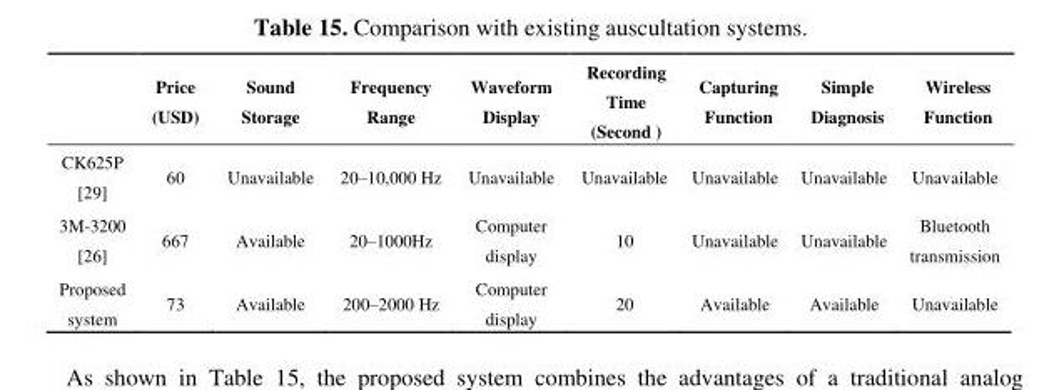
<table><thead><tr><td></td><td>Price (USD)</td><td>Sound Storage</td><td>Frequency Range</td><td>Waveform Display</td><td>Recording Time (Second )</td><td>Capturing Function</td><td>Simple Diagnosis</td><td>Wireless Function</td></tr></thead><tbody><tr><td>CK625P [29]</td><td>60</td><td>Unavailable</td><td>20–10,000 Hz</td><td>Unavailable</td><td>Unavailable</td><td>Unavailable</td><td>Unavailable</td><td>Unavailable</td></tr><tr><td>3M-3200 [26]</td><td>667</td><td>Available</td><td>20–1000Hz</td><td>Computer display</td><td>10</td><td>Unavailable</td><td>Unavailable</td><td>Bluetooth transmission</td></tr><tr><td>Proposed system</td><td>73</td><td>Available</td><td>200–2000 Hz</td><td>Computer display</td><td>20</td><td>Available</td><td>Available</td><td>Unavailable</td></tr></tbody></table>